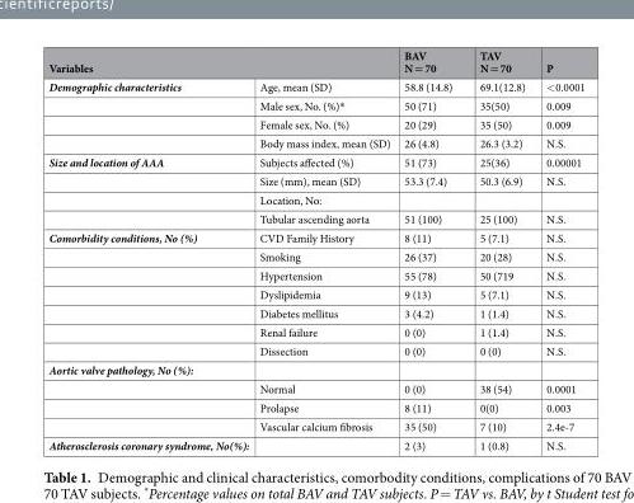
<table><thead><tr><td colspan="2">Variables</td><td rowspan="2">BAV N = 70 58.8 (14.8)</td><td rowspan="2">TAV N = 70 69.1(12.8)</td><td rowspan="2">P &lt;0.0001</td></tr><tr><td>Demographic characteristics</td><td>Age, mean (SD)</td></tr></thead><tbody><tr><td></td><td>Male sex, No. (%)*</td><td>50 (71)</td><td>35(50)</td><td>0.009</td></tr><tr><td></td><td>Female sex, No. (%)</td><td>20 (29)</td><td>35 (50)</td><td>0.009</td></tr><tr><td></td><td>Body mass index, mean (SD)</td><td>26 (4.8)</td><td>26.3 (3.2)</td><td>N.S.</td></tr><tr><td rowspan="4">Size and location of AAA</td><td>Subjects affected (%)</td><td>51 (73)</td><td>25(36)</td><td>0.00001</td></tr><tr><td>Size (mm), mean (SD)</td><td>53.3 (7.4)</td><td>50.3 (6.9)</td><td>N.S.</td></tr><tr><td>Location, No:</td><td></td><td></td><td></td></tr><tr><td>Tubular ascending aorta</td><td>51 (100)</td><td>25 (100)</td><td>N.S.</td></tr><tr><td rowspan="7">Comorbidity conditions, No (%)</td><td>CVD Family History</td><td>8 (11)</td><td>5 (7.1)</td><td>N.S.</td></tr><tr><td>Smoking</td><td>26 (37)</td><td>20 (28)</td><td>N.S.</td></tr><tr><td>Hypertension</td><td>55 (78)</td><td>50 (719</td><td>N.S.</td></tr><tr><td>Dyslipidemia</td><td>9 (13)</td><td>5 (7.1)</td><td>N.S.</td></tr><tr><td>Diabetes mellitus</td><td>3 (4.2)</td><td>1 (1.4)</td><td>N.S.</td></tr><tr><td>Renal failure</td><td>0 (0)</td><td>1 (1.4)</td><td>N.S.</td></tr><tr><td>Dissection</td><td>0 (0)</td><td>0 (0)</td><td>N.S.</td></tr><tr><td colspan="5">Aortic valve pathology, No (%):</td></tr><tr><td></td><td>Normal</td><td>0 (0)</td><td>38 (54)</td><td>0.0001</td></tr><tr><td></td><td>Prolapse</td><td>8 (11)</td><td>0(0)</td><td>0.003</td></tr><tr><td></td><td>Vascular calcium fibrosis</td><td>35 (50)</td><td>7 (10)</td><td>2.4e-7</td></tr><tr><td>Atherosclerosis coronary syndrome, No(%):</td><td></td><td>2 (3)</td><td>1 (0.8)</td><td>N.S.</td></tr></tbody></table>